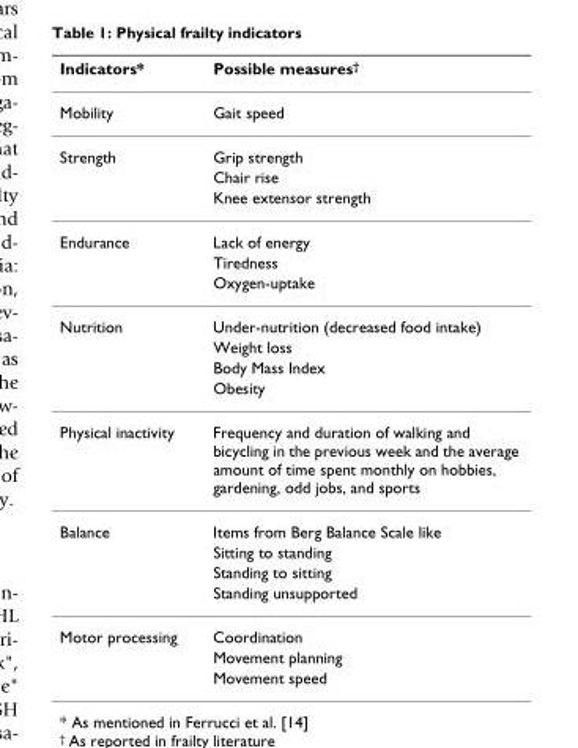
<table><thead><tr><td>Indicators*</td><td>Possible measures<sup>†</sup></td></tr></thead><tbody><tr><td>Mobility</td><td>Gait speed</td></tr><tr><td rowspan="3">Strength</td><td>Grip strength</td></tr><tr><td>Chair rise</td></tr><tr><td>Knee extensor strength</td></tr><tr><td rowspan="3">Endurance</td><td>Lack of energy</td></tr><tr><td>Tiredness</td></tr><tr><td>Oxygen-uptake</td></tr><tr><td rowspan="4">Nutrition</td><td>Under-nutrition (decreased food intake)</td></tr><tr><td>Weight loss</td></tr><tr><td>Body Mass Index</td></tr><tr><td>Obesity</td></tr><tr><td>Physical inactivity</td><td>Frequency and duration of walking and bicycling in the previous week and the average amount of time spent monthly on hobbies, gardening, odd jobs, and sports</td></tr><tr><td rowspan="4">Balance</td><td>Items from Berg Balance Scale like</td></tr><tr><td>Sitting to standing</td></tr><tr><td>Standing to sitting</td></tr><tr><td>Standing unsupported</td></tr><tr><td rowspan="3">Motor processing</td><td>Coordination</td></tr><tr><td>Movement planning</td></tr><tr><td>Movement speed</td></tr></tbody></table>